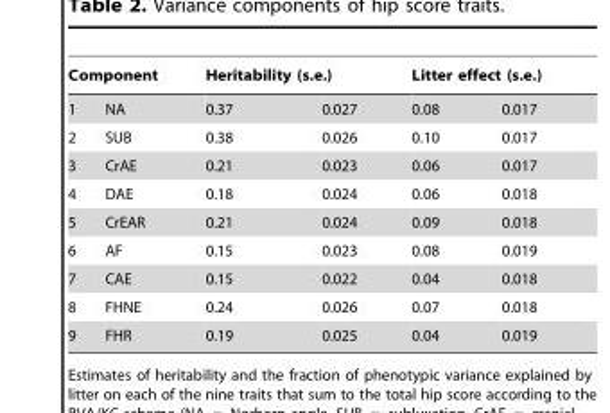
<table><thead><tr><td colspan="2">Component</td><td colspan="2">Heritability (s.e.)</td><td colspan="2">Litter effect (s.e.)</td></tr><tr><td>1</td><td>NA</td><td>0.37</td><td>0.027</td><td>0.08</td><td>0.017</td></tr></thead><tbody><tr><td>2</td><td>SUB</td><td>0.38</td><td>0.026</td><td>0.10</td><td>0.017</td></tr><tr><td>3</td><td>CrAE</td><td>0.21</td><td>0.023</td><td>0.06</td><td>0.017</td></tr><tr><td>4</td><td>DAE</td><td>0.18</td><td>0.024</td><td>0.06</td><td>0.018</td></tr><tr><td>5</td><td>CrEAR</td><td>0.21</td><td>0.024</td><td>0.09</td><td>0.018</td></tr><tr><td>6</td><td>AF</td><td>0.15</td><td>0.023</td><td>0.08</td><td>0.019</td></tr><tr><td>7</td><td>CAE</td><td>0.15</td><td>0.022</td><td>0.04</td><td>0.018</td></tr><tr><td>8</td><td>FHNE</td><td>0.24</td><td>0.026</td><td>0.07</td><td>0.018</td></tr><tr><td>9</td><td>FHR</td><td>0.19</td><td>0.025</td><td>0.04</td><td>0.019</td></tr></tbody></table>